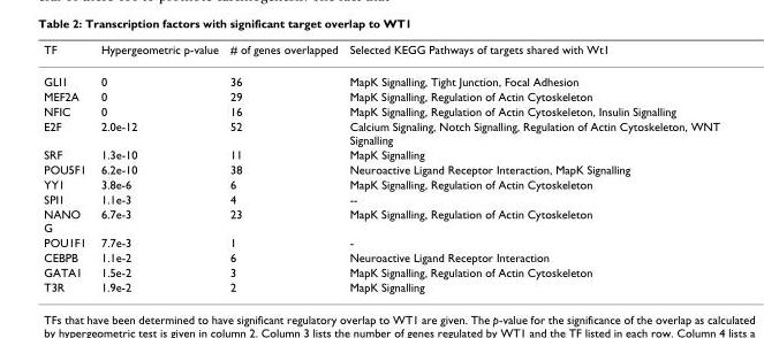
<table><thead><tr><td>TF</td><td>Hypergeometric p-value</td><td># of genes overlapped</td><td>Selected KEGG Pathways of targets shared with Wt1</td></tr></thead><tbody><tr><td>GLI1</td><td>0</td><td>36</td><td>MapK Signalling, Tight Junction, Focal Adhesion</td></tr><tr><td>MEF2A</td><td>0</td><td>29</td><td>MapK Signalling, Regulation of Actin Cytoskeleton</td></tr><tr><td>NFIC</td><td>0</td><td>16</td><td>MapK Signalling, Regulation of Actin Cytoskeleton, Insulin Signalling</td></tr><tr><td>E2F</td><td>2.0e-12</td><td>52</td><td>Calcium Signaling, Notch Signalling, Regulation of Actin Cytoskeleton, WNT Signalling</td></tr><tr><td>SRF</td><td>1.3e-10</td><td>11</td><td>MapK Signalling</td></tr><tr><td>POU5F1</td><td>6.2e-10</td><td>38</td><td>Neuroactive Ligand Receptor Interaction, MapK Signalling</td></tr><tr><td>YY1</td><td>3.8e-6</td><td>6</td><td>MapK Signalling, Regulation of Actin Cytoskeleton</td></tr><tr><td>SPI1</td><td>1.1e-3</td><td>4</td><td>--</td></tr><tr><td>NANO G</td><td>6.7e-3</td><td>23</td><td>MapK Signalling, Regulation of Actin Cytoskeleton</td></tr><tr><td>POU1F1</td><td>7.7e-3</td><td>1</td><td>-</td></tr><tr><td>CEBPB</td><td>1.1e-2</td><td>6</td><td>Neuroactive Ligand Receptor Interaction</td></tr><tr><td>GATA1</td><td>1.5e-2</td><td>3</td><td>MapK Signalling, Regulation of Actin Cytoskeleton</td></tr><tr><td>T3R</td><td>1.9e-2</td><td>2</td><td>MapK Signalling</td></tr></tbody></table>